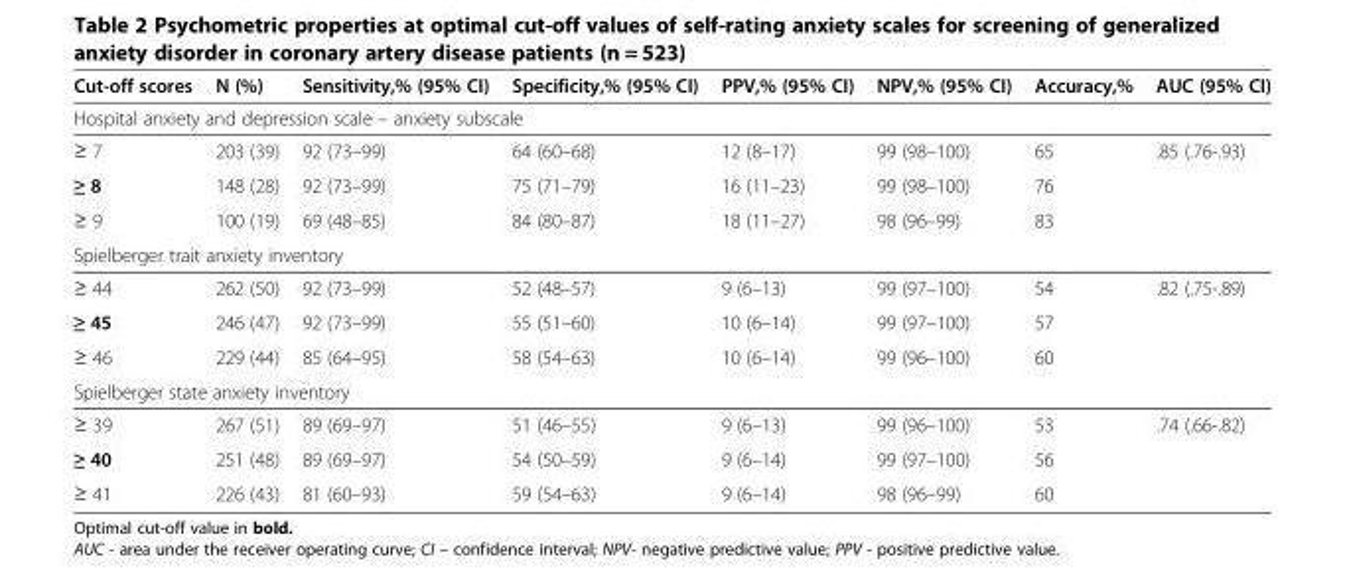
<table><thead><tr><td>Cut-off scores</td><td>N (%)</td><td>Sensitivity,% (95% CI)</td><td>Specificity,% (95% CI)</td><td>PPV,% (95% CI)</td><td>NPV,% (95% CI)</td><td>Accuracy,%</td><td>AUC (95% CI)</td></tr></thead><tbody><tr><td colspan="8">Hospital anxiety and depression scale – anxiety subscale</td></tr><tr><td>≥ 7</td><td>203 (39)</td><td>92 (73–99)</td><td>64 (60–68)</td><td>12 (8–17)</td><td>99 (98–100)</td><td>65</td><td rowspan="3">.85 (.76-.93)</td></tr><tr><td>≥ 8</td><td>148 (28)</td><td>92 (73–99)</td><td>75 (71–79)</td><td>16 (11–23)</td><td>99 (98–100)</td><td>76</td></tr><tr><td>≥ 9</td><td>100 (19)</td><td>69 (48–85)</td><td>84 (80–87)</td><td>18 (11–27)</td><td>98 (96–99)</td><td>83</td></tr><tr><td colspan="8">Spielberger trait anxiety inventory</td></tr><tr><td>≥ 44</td><td>262 (50)</td><td>92 (73–99)</td><td>52 (48–57)</td><td>9 (6–13)</td><td>99 (97–100)</td><td>54</td><td rowspan="3">.82 (.75-.89)</td></tr><tr><td>≥ 45</td><td>246 (47)</td><td>92 (73–99)</td><td>55 (51–60)</td><td>10 (6–14)</td><td>99 (97–100)</td><td>57</td></tr><tr><td>≥ 46</td><td>229 (44)</td><td>85 (64–95)</td><td>58 (54–63)</td><td>10 (6–14)</td><td>99 (96–100)</td><td>60</td></tr><tr><td colspan="8">Spielberger state anxiety inventory</td></tr><tr><td>≥ 39</td><td>267 (51)</td><td>89 (69–97)</td><td>51 (46–55)</td><td>9 (6–13)</td><td>99 (96–100)</td><td>53</td><td rowspan="2">.74 (.66-.82)</td></tr><tr><td>≥ 40</td><td>251 (48)</td><td>89 (69–97)</td><td>54 (50–59)</td><td>9 (6–14)</td><td>99 (97–100)</td><td>56</td></tr><tr><td>≥ 41</td><td>226 (43)</td><td>81 (60–93)</td><td>59 (54–63)</td><td>9 (6–14)</td><td>98 (96–99)</td><td>60</td><td></td></tr></tbody></table>